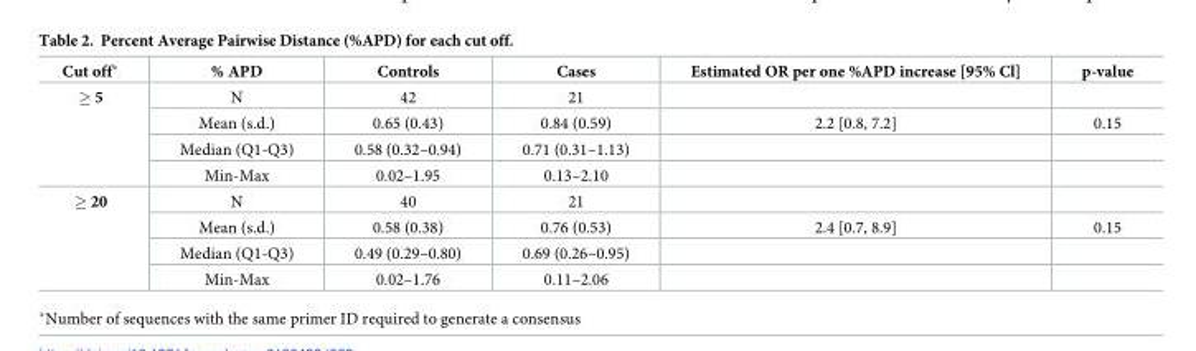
<table><thead><tr><td>Cut off*</td><td>% APD</td><td>Controls</td><td>Cases</td><td>Estimated OR per one %APD increase [95% Cl]</td><td>p-value</td></tr></thead><tbody><tr><td rowspan="4">≥ 5</td><td>N</td><td>42</td><td>21</td><td></td><td></td></tr><tr><td>Mean (s.d.)</td><td>0.65 (0.43)</td><td>0.84 (0.59)</td><td>2.2 [0.8, 7.2]</td><td>0.15</td></tr><tr><td>Median (Q1-Q3)</td><td>0.58 (0.32–0.94)</td><td>0.71 (0.31–1.13)</td><td></td><td></td></tr><tr><td>Min-Max</td><td>0.02–1.95</td><td>0.13–2.10</td><td></td><td></td></tr><tr><td rowspan="4">≥ 20</td><td>N</td><td>40</td><td>21</td><td></td><td></td></tr><tr><td>Mean (s.d.)</td><td>0.58 (0.38)</td><td>0.76 (0.53)</td><td>2.4 [0.7, 8.9]</td><td>0.15</td></tr><tr><td>Median (Q1-Q3)</td><td>0.49 (0.29–0.80)</td><td>0.69 (0.26–0.95)</td><td></td><td></td></tr><tr><td>Min-Max</td><td>0.02–1.76</td><td>0.11–2.06</td><td></td><td></td></tr></tbody></table>